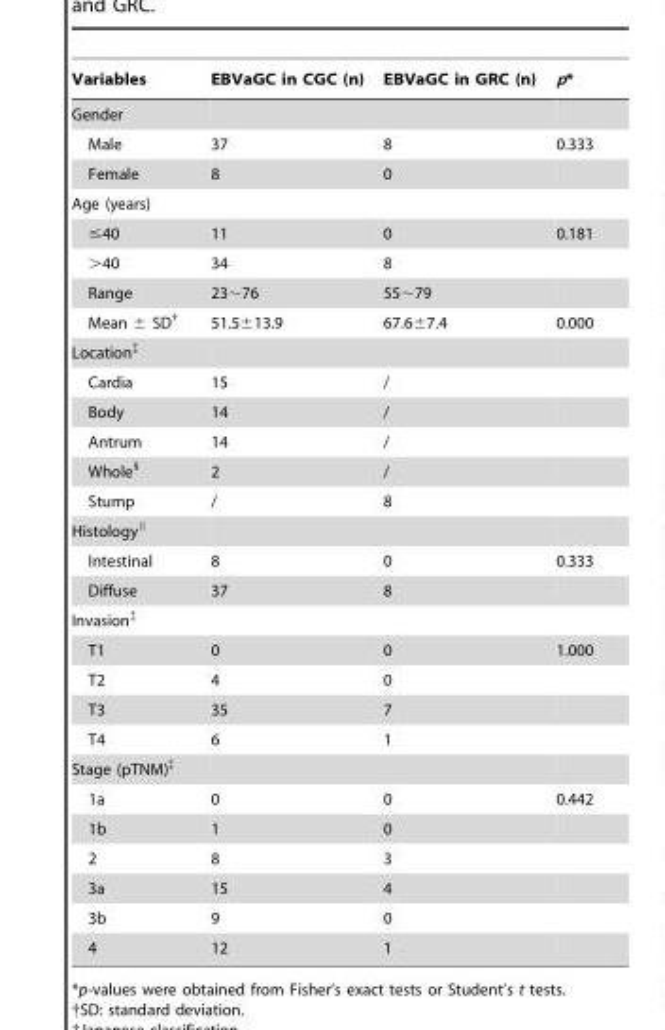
<table><thead><tr><td>Variables</td><td>EBVaGC in CGC (n)</td><td>EBVaGC in GRC (n)</td><td>p*</td></tr></thead><tbody><tr><td colspan="4">Gender</td></tr><tr><td>Male</td><td>37</td><td>8</td><td>0.333</td></tr><tr><td>Female</td><td>8</td><td>0</td><td></td></tr><tr><td colspan="4">Age (years)</td></tr><tr><td>≤40</td><td>11</td><td>0</td><td>0.181</td></tr><tr><td>&gt;40</td><td>34</td><td>8</td><td></td></tr><tr><td>Range</td><td>23∼76</td><td>55∼79</td><td></td></tr><tr><td>Mean ± SD†</td><td>51.5±13.9</td><td>67.6±7.4</td><td>0.000</td></tr><tr><td colspan="4">Location‡</td></tr><tr><td>Cardia</td><td>15</td><td>/</td><td></td></tr><tr><td>Body</td><td>14</td><td>/</td><td></td></tr><tr><td>Antrum</td><td>14</td><td>/</td><td></td></tr><tr><td>Whole§</td><td>2</td><td>/</td><td></td></tr><tr><td>Stump</td><td>/</td><td>8</td><td></td></tr><tr><td colspan="4">Histology∥</td></tr><tr><td>Intestinal</td><td>8</td><td>0</td><td>0.333</td></tr><tr><td>Diffuse</td><td>37</td><td>8</td><td></td></tr><tr><td colspan="4">Invasion‡</td></tr><tr><td>T1</td><td>0</td><td>0</td><td>1.000</td></tr><tr><td>T2</td><td>4</td><td>0</td><td></td></tr><tr><td>T3</td><td>35</td><td>7</td><td></td></tr><tr><td>T4</td><td>6</td><td>1</td><td></td></tr><tr><td colspan="4">Stage (pTNM)‡</td></tr><tr><td>1a</td><td>0</td><td>0</td><td>0.442</td></tr><tr><td>1b</td><td>1</td><td>0</td><td></td></tr><tr><td>2</td><td>8</td><td>3</td><td></td></tr><tr><td>3a</td><td>15</td><td>4</td><td></td></tr><tr><td>3b</td><td>9</td><td>0</td><td></td></tr><tr><td>4</td><td>12</td><td>1</td><td></td></tr></tbody></table>